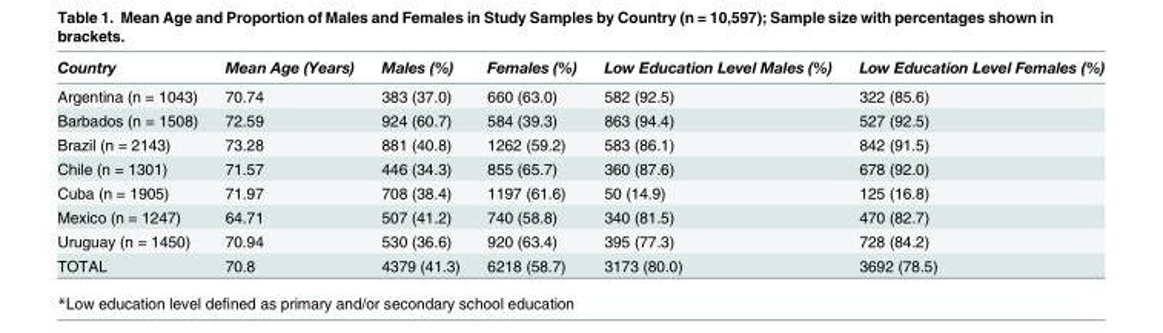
<table><thead><tr><td>Country</td><td>Mean Age (Years)</td><td>Males (%)</td><td>Females (%)</td><td>Low Education Level Males (%)</td><td>Low Education Level Females (%)</td></tr></thead><tbody><tr><td>Argentina (n = 1043)</td><td>70.74</td><td>383 (37.0)</td><td>660 (63.0)</td><td>582 (92.5)</td><td>322 (85.6)</td></tr><tr><td>Barbados (n = 1508)</td><td>72.59</td><td>924 (60.7)</td><td>584 (39.3)</td><td>863 (94.4)</td><td>527 (92.5)</td></tr><tr><td>Brazil (n = 2143)</td><td>73.28</td><td>881 (40.8)</td><td>1262 (59.2)</td><td>583 (86.1)</td><td>842 (91.5)</td></tr><tr><td>Chile (n = 1301)</td><td>71.57</td><td>446 (34.3)</td><td>855 (65.7)</td><td>360 (87.6)</td><td>678 (92.0)</td></tr><tr><td>Cuba (n = 1905)</td><td>71.97</td><td>708 (38.4)</td><td>1197 (61.6)</td><td>50 (14.9)</td><td>125 (16.8)</td></tr><tr><td>Mexico (n = 1247)</td><td>64.71</td><td>507 (41.2)</td><td>740 (58.8)</td><td>340 (81.5)</td><td>470 (82.7)</td></tr><tr><td>Uruguay (n = 1450)</td><td>70.94</td><td>530 (36.6)</td><td>920 (63.4)</td><td>395 (77.3)</td><td>728 (84.2)</td></tr><tr><td>TOTAL</td><td>70.8</td><td>4379 (41.3)</td><td>6218 (58.7)</td><td>3173 (80.0)</td><td>3692 (78.5)</td></tr></tbody></table>